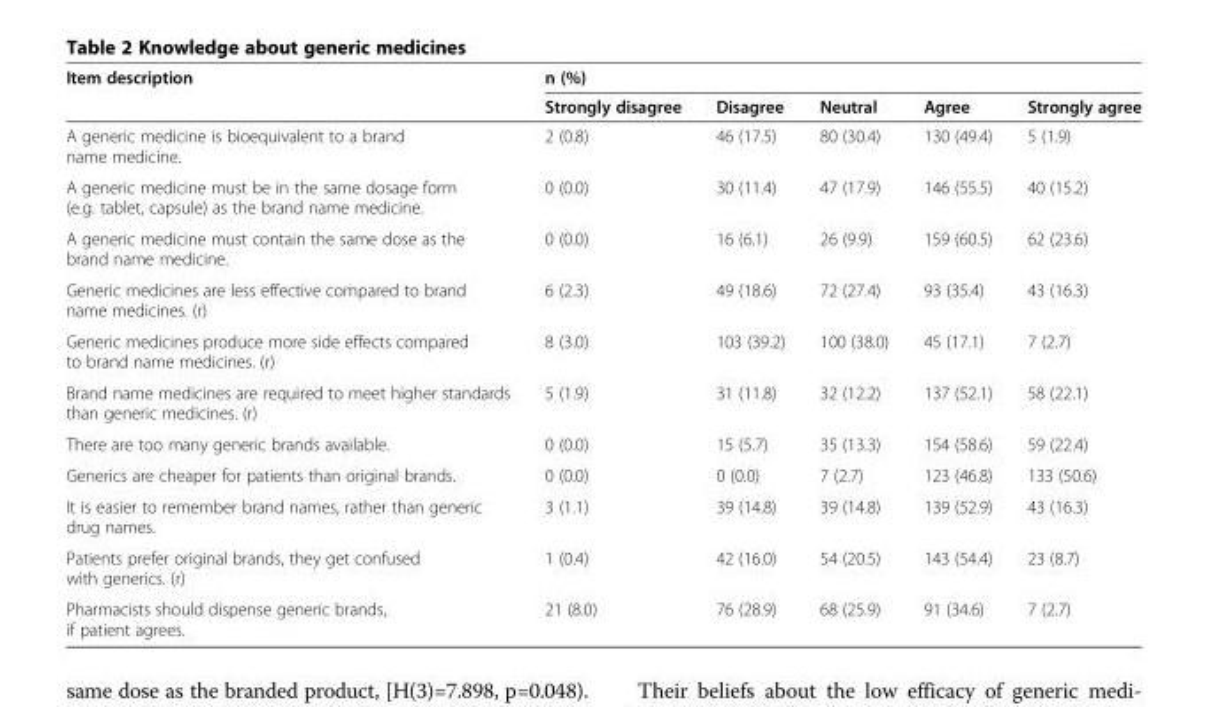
<table><thead><tr><td rowspan="2">Item description</td><td colspan="5">n (%)</td></tr><tr><td>Strongly disagree</td><td>Disagree</td><td>Neutral</td><td>Agree</td><td>Strongly agree</td></tr></thead><tbody><tr><td>A generic medicine is bioequivalent to a brand name medicine.</td><td>2 (0.8)</td><td>46 (17.5)</td><td>80 (30.4)</td><td>130 (49.4)</td><td>5 (1.9)</td></tr><tr><td>A generic medicine must be in the same dosage form (e.g. tablet, capsule) as the brand name medicine.</td><td>0 (0.0)</td><td>30 (11.4)</td><td>47 (17.9)</td><td>146 (55.5)</td><td>40 (15.2)</td></tr><tr><td>A generic medicine must contain the same dose as the brand name medicine.</td><td>0 (0.0)</td><td>16 (6.1)</td><td>26 (9.9)</td><td>159 (60.5)</td><td>62 (23.6)</td></tr><tr><td>Generic medicines are less effective compared to brand name medicines. (r)</td><td>6 (2.3)</td><td>49 (18.6)</td><td>72 (27.4)</td><td>93 (35.4)</td><td>43 (16.3)</td></tr><tr><td>Generic medicines produce more side effects compared to brand name medicines. (r)</td><td>8 (3.0)</td><td>103 (39.2)</td><td>100 (38.0)</td><td>45 (17.1)</td><td>7 (2.7)</td></tr><tr><td>Brand name medicines are required to meet higher standards than generic medicines. (r)</td><td>5 (1.9)</td><td>31 (11.8)</td><td>32 (12.2)</td><td>137 (52.1)</td><td>58 (22.1)</td></tr><tr><td>There are too many generic brands available.</td><td>0 (0.0)</td><td>15 (5.7)</td><td>35 (13.3)</td><td>154 (58.6)</td><td>59 (22.4)</td></tr><tr><td>Generics are cheaper for patients than original brands.</td><td>0 (0.0)</td><td>0 (0.0)</td><td>7 (2.7)</td><td>123 (46.8)</td><td>133 (50.6)</td></tr><tr><td>It is easier to remember brand names, rather than generic drug names.</td><td>3 (1.1)</td><td>39 (14.8)</td><td>39 (14.8)</td><td>139 (52.9)</td><td>43 (16.3)</td></tr><tr><td>Patients prefer original brands, they get confused with generics. (r)</td><td>1 (0.4)</td><td>42 (16.0)</td><td>54 (20.5)</td><td>143 (54.4)</td><td>23 (8.7)</td></tr><tr><td>Pharmacists should dispense generic brands, if patient agrees.</td><td>21 (8.0)</td><td>76 (28.9)</td><td>68 (25.9)</td><td>91 (34.6)</td><td>7 (2.7)</td></tr></tbody></table>